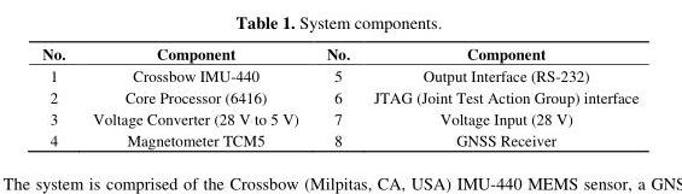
<table><thead><tr><td>No.</td><td>Component</td><td>No.</td><td>Component</td></tr></thead><tbody><tr><td>1</td><td>Crossbow IMU-440</td><td>5</td><td>Output Interface (RS-232)</td></tr><tr><td>2</td><td>Core Processor (6416)</td><td>6</td><td>JTAG (Joint Test Action Group) interface</td></tr><tr><td>3</td><td>Voltage Converter (28 V to 5 V)</td><td>7</td><td>Voltage Input (28 V)</td></tr><tr><td>4</td><td>Magnetometer TCM5</td><td>8</td><td>GNSS Receiver</td></tr></tbody></table>